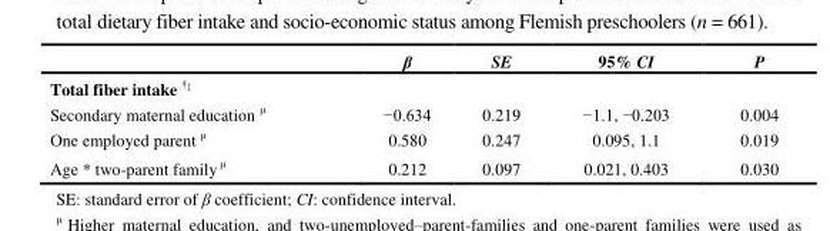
<table><thead><tr><td rowspan="2">Total fiber intake <sup>†‡</sup></td><td rowspan="2">β</td><td rowspan="2">SE</td><td rowspan="2">95% CI</td><td rowspan="2">P</td></tr><tr></tr></thead><tbody><tr><td>Secondary maternal education <sup>μ</sup></td><td>−0.634</td><td>0.219</td><td>−1.1, −0.203</td><td>0.004</td></tr><tr><td>One employed parent <sup>μ</sup></td><td>0.580</td><td>0.247</td><td>0.095, 1.1</td><td>0.019</td></tr><tr><td>Age * two-parent family <sup>μ</sup></td><td>0.212</td><td>0.097</td><td>0.021, 0.403</td><td>0.030</td></tr></tbody></table>